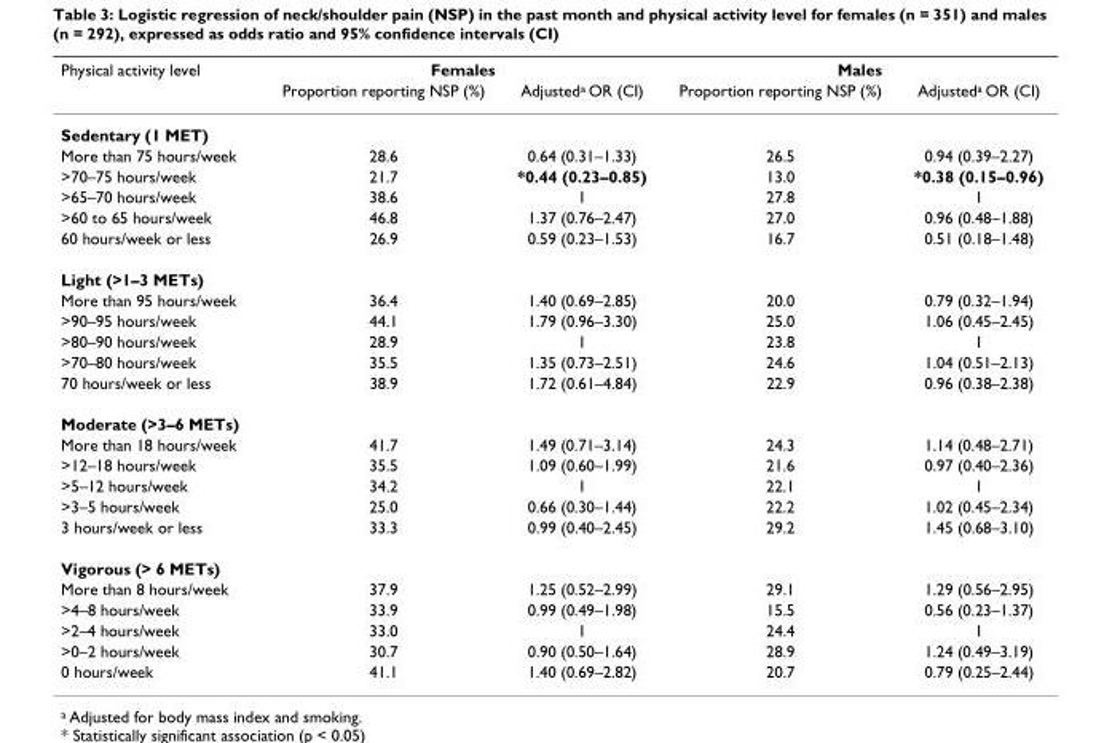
<table><thead><tr><td rowspan="2">Physical activity level</td><td colspan="2">Females</td><td colspan="2">Males</td></tr><tr><td>Proportion reporting NSP (%)</td><td>Adjusted<sup>a</sup> OR (CI)</td><td>Proportion reporting NSP (%)</td><td>Adjusted<sup>a</sup> OR (CI)</td></tr></thead><tbody><tr><td colspan="5">Sedentary (1 MET)</td></tr><tr><td>More than 75 hours/week</td><td>28.6</td><td>0.64 (0.31–1.33)</td><td>26.5</td><td>0.94 (0.39–2.27)</td></tr><tr><td>&gt;70–75 hours/week</td><td>21.7</td><td>*0.44 (0.23–0.85)</td><td>13.0</td><td>*0.38 (0.15–0.96)</td></tr><tr><td>&gt;65–70 hours/week</td><td>38.6</td><td>1</td><td>27.8</td><td>1</td></tr><tr><td>&gt;60 to 65 hours/week</td><td>46.8</td><td>1.37 (0.76–2.47)</td><td>27.0</td><td>0.96 (0.48–1.88)</td></tr><tr><td>60 hours/week or less</td><td>26.9</td><td>0.59 (0.23–1.53)</td><td>16.7</td><td>0.51 (0.18–1.48)</td></tr><tr><td colspan="5">Light (&gt;1–3 METs)</td></tr><tr><td>More than 95 hours/week</td><td>36.4</td><td>1.40 (0.69–2.85)</td><td>20.0</td><td>0.79 (0.32–1.94)</td></tr><tr><td>&gt;90–95 hours/week</td><td>44.1</td><td>1.79 (0.96–3.30)</td><td>25.0</td><td>1.06 (0.45–2.45)</td></tr><tr><td>&gt;80–90 hours/week</td><td>28.9</td><td>1</td><td>23.8</td><td>1</td></tr><tr><td>&gt;70–80 hours/week</td><td>35.5</td><td>1.35 (0.73–2.51)</td><td>24.6</td><td>1.04 (0.51–2.13)</td></tr><tr><td>70 hours/week or less</td><td>38.9</td><td>1.72 (0.61–4.84)</td><td>22.9</td><td>0.96 (0.38–2.38)</td></tr><tr><td colspan="5">Moderate (&gt;3–6 METs)</td></tr><tr><td>More than 18 hours/week</td><td>41.7</td><td>1.49 (0.71–3.14)</td><td>24.3</td><td>1.14 (0.48–2.71)</td></tr><tr><td>&gt;12–18 hours/week</td><td>35.5</td><td>1.09 (0.60–1.99)</td><td>21.6</td><td>0.97 (0.40–2.36)</td></tr><tr><td>&gt;5–12 hours/week</td><td>34.2</td><td>1</td><td>22.1</td><td>1</td></tr><tr><td>&gt;3–5 hours/week</td><td>25.0</td><td>0.66 (0.30–1.44)</td><td>22.2</td><td>1.02 (0.45–2.34)</td></tr><tr><td>3 hours/week or less</td><td>33.3</td><td>0.99 (0.40–2.45)</td><td>29.2</td><td>1.45 (0.68–3.10)</td></tr><tr><td colspan="5">Vigorous (&gt; 6 METs)</td></tr><tr><td>More than 8 hours/week</td><td>37.9</td><td>1.25 (0.52–2.99)</td><td>29.1</td><td>1.29 (0.56–2.95)</td></tr><tr><td>&gt;4–8 hours/week</td><td>33.9</td><td>0.99 (0.49–1.98)</td><td>15.5</td><td>0.56 (0.23–1.37)</td></tr><tr><td>&gt;2–4 hours/week</td><td>33.0</td><td>1</td><td>24.4</td><td>1</td></tr><tr><td>&gt;0–2 hours/week</td><td>30.7</td><td>0.90 (0.50–1.64)</td><td>28.9</td><td>1.24 (0.49–3.19)</td></tr><tr><td>0 hours/week</td><td>41.1</td><td>1.40 (0.69–2.82)</td><td>20.7</td><td>0.79 (0.25–2.44)</td></tr></tbody></table>